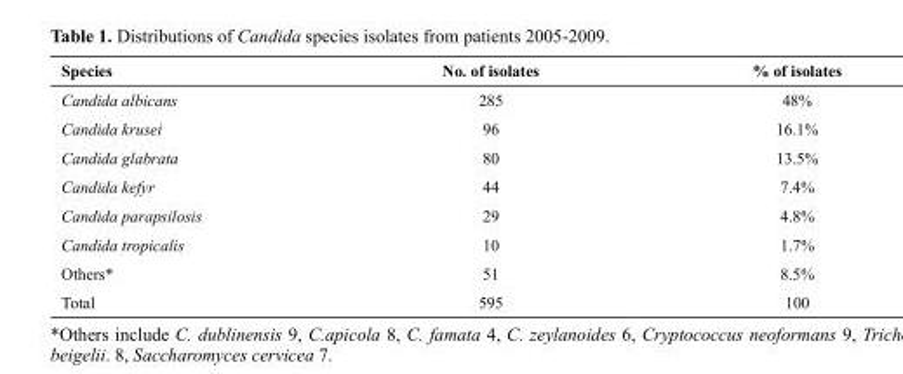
<table><thead><tr><td>Species</td><td>No. of isolates</td><td>% of isolates</td></tr></thead><tbody><tr><td>Candida albicans</td><td>285</td><td>48%</td></tr><tr><td>Candida krusei</td><td>96</td><td>16.1%</td></tr><tr><td>Candida glabrata</td><td>80</td><td>13.5%</td></tr><tr><td>Candida kefyr</td><td>44</td><td>7.4%</td></tr><tr><td>Candida parapsilosis</td><td>29</td><td>4.8%</td></tr><tr><td>Candida tropicalis</td><td>10</td><td>1.7%</td></tr><tr><td>Others*</td><td>51</td><td>8.5%</td></tr><tr><td>Total</td><td>595</td><td>100</td></tr></tbody></table>